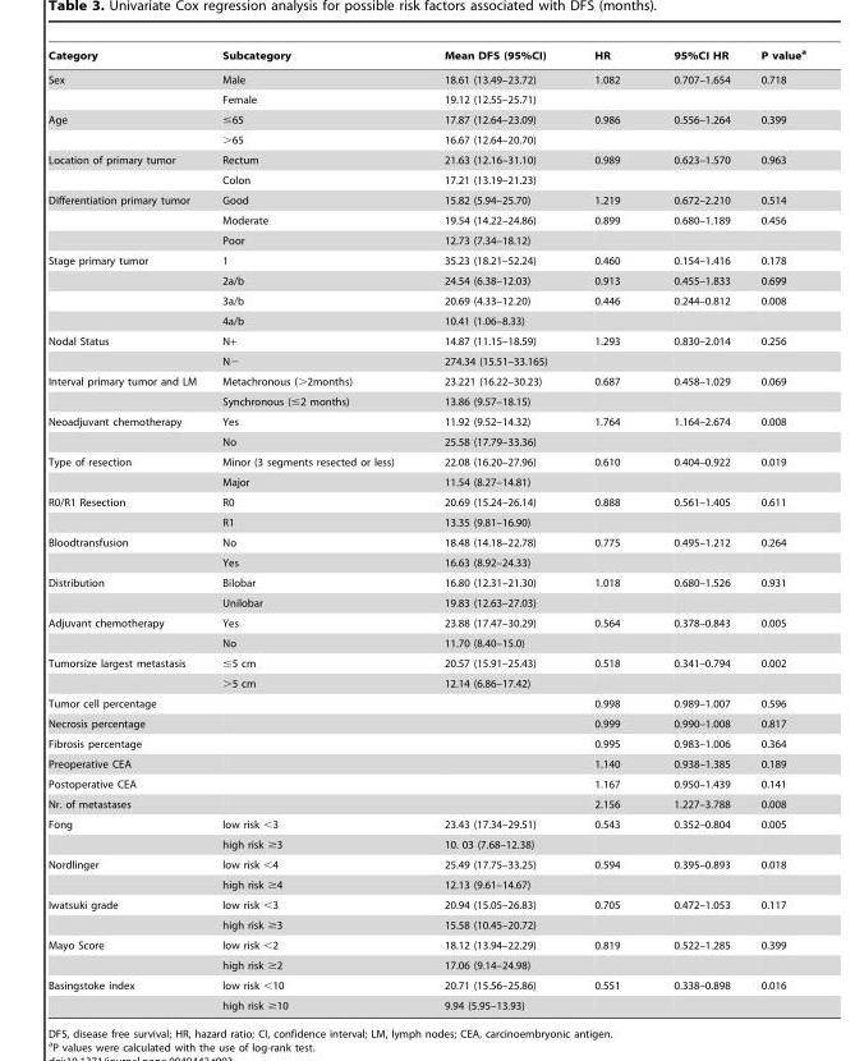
<table><thead><tr><td>Category</td><td>Subcategory</td><td>Mean DFS (95%CI)</td><td>HR</td><td>95%CI HR</td><td>P value<sup>a</sup></td></tr></thead><tbody><tr><td rowspan="2">Sex</td><td>Male</td><td>18.61 (13.49–23.72)</td><td>1.082</td><td>0.707–1.654</td><td>0.718</td></tr><tr><td>Female</td><td>19.12 (12.55–25.71)</td><td></td><td></td><td></td></tr><tr><td rowspan="2">Age</td><td>≤65</td><td>17.87 (12.64–23.09)</td><td>0.986</td><td>0.556–1.264</td><td>0.399</td></tr><tr><td>&gt;65</td><td>16.67 (12.64–20.70)</td><td></td><td></td><td></td></tr><tr><td rowspan="2">Location of primary tumor</td><td>Rectum</td><td>21.63 (12.16–31.10)</td><td>0.989</td><td>0.623–1.570</td><td>0.963</td></tr><tr><td>Colon</td><td>17.21 (13.19–21.23)</td><td></td><td></td><td></td></tr><tr><td rowspan="3">Differentiation primary tumor</td><td>Good</td><td>15.82 (5.94–25.70)</td><td>1.219</td><td>0.672–2.210</td><td>0.514</td></tr><tr><td>Moderate</td><td>19.54 (14.22–24.86)</td><td>0.899</td><td>0.680–1.189</td><td>0.456</td></tr><tr><td>Poor</td><td>12.73 (7.34–18.12)</td><td></td><td></td><td></td></tr><tr><td rowspan="4">Stage primary tumor</td><td>1</td><td>35.23 (18.21–52.24)</td><td>0.460</td><td>0.154–1.416</td><td>0.178</td></tr><tr><td>2a/b</td><td>24.54 (6.38–12.03)</td><td>0.913</td><td>0.455–1.833</td><td>0.699</td></tr><tr><td>3a/b</td><td>20.69 (4.33–12.20)</td><td>0.446</td><td>0.244–0.812</td><td>0.008</td></tr><tr><td>4a/b</td><td>10.41 (1.06–8.33)</td><td></td><td></td><td></td></tr><tr><td rowspan="2">Nodal Status</td><td>N+</td><td>14.87 (11.15–18.59)</td><td>1.293</td><td>0.830–2.014</td><td>0.256</td></tr><tr><td>N−</td><td>274.34 (15.51–33.165)</td><td></td><td></td><td></td></tr><tr><td rowspan="2">Interval primary tumor and LM</td><td>Metachronous (&gt;2months)</td><td>23.221 (16.22–30.23)</td><td>0.687</td><td>0.458–1.029</td><td>0.069</td></tr><tr><td>Synchronous (≤2 months)</td><td>13.86 (9.57–18.15)</td><td></td><td></td><td></td></tr><tr><td rowspan="2">Neoadjuvant chemotherapy</td><td>Yes</td><td>11.92 (9.52–14.32)</td><td>1.764</td><td>1.164–2.674</td><td>0.008</td></tr><tr><td>No</td><td>25.58 (17.79–33.36)</td><td></td><td></td><td></td></tr><tr><td rowspan="2">Type of resection</td><td>Minor (3 segments resected or less)</td><td>22.08 (16.20–27.96)</td><td>0.610</td><td>0.404–0.922</td><td>0.019</td></tr><tr><td>Major</td><td>11.54 (8.27–14.81)</td><td></td><td></td><td></td></tr><tr><td rowspan="2">R0/R1 Resection</td><td>R0</td><td>20.69 (15.24–26.14)</td><td>0.888</td><td>0.561–1.405</td><td>0.611</td></tr><tr><td>R1</td><td>13.35 (9.81–16.90)</td><td></td><td></td><td></td></tr><tr><td rowspan="2">Bloodtransfusion</td><td>No</td><td>18.48 (14.18–22.78)</td><td>0.775</td><td>0.495–1.212</td><td>0.264</td></tr><tr><td>Yes</td><td>16.63 (8.92–24.33)</td><td></td><td></td><td></td></tr><tr><td rowspan="2">Distribution</td><td>Bilobar</td><td>16.80 (12.31–21.30)</td><td>1.018</td><td>0.680–1.526</td><td>0.931</td></tr><tr><td>Unilobar</td><td>19.83 (12.63–27.03)</td><td></td><td></td><td></td></tr><tr><td rowspan="2">Adjuvant chemotherapy</td><td>Yes</td><td>23.88 (17.47–30.29)</td><td>0.564</td><td>0.378–0.843</td><td>0.005</td></tr><tr><td>No</td><td>11.70 (8.40–15.0)</td><td></td><td></td><td></td></tr><tr><td rowspan="2">Tumorsize largest metastasis</td><td>≤5 cm</td><td>20.57 (15.91–25.43)</td><td>0.518</td><td>0.341–0.794</td><td>0.002</td></tr><tr><td>&gt;5 cm</td><td>12.14 (6.86–17.42)</td><td></td><td></td><td></td></tr><tr><td>Tumor cell percentage</td><td></td><td></td><td>0.998</td><td>0.989–1.007</td><td>0.596</td></tr><tr><td>Necrosis percentage</td><td></td><td></td><td>0.999</td><td>0.990–1.008</td><td>0.817</td></tr><tr><td>Fibrosis percentage</td><td></td><td></td><td>0.995</td><td>0.983–1.006</td><td>0.364</td></tr><tr><td>Preoperative CEA</td><td></td><td></td><td>1.140</td><td>0.938–1.385</td><td>0.189</td></tr><tr><td>Postoperative CEA</td><td></td><td></td><td>1.167</td><td>0.950–1.439</td><td>0.141</td></tr><tr><td>Nr. of metastases</td><td></td><td></td><td>2.156</td><td>1.227–3.788</td><td>0.008</td></tr><tr><td rowspan="2">Fong</td><td>low risk &lt;3</td><td>23.43 (17.34–29.51)</td><td>0.543</td><td>0.352–0.804</td><td>0.005</td></tr><tr><td>high risk ≥3</td><td>10. 03 (7.68–12.38)</td><td></td><td></td><td></td></tr><tr><td rowspan="2">Nordlinger</td><td>low risk &lt;4</td><td>25.49 (17.75–33.25)</td><td>0.594</td><td>0.395–0.893</td><td>0.018</td></tr><tr><td>high risk ≥4</td><td>12.13 (9.61–14.67)</td><td></td><td></td><td></td></tr><tr><td rowspan="2">Iwatsuki grade</td><td>low risk &lt;3</td><td>20.94 (15.05–26.83)</td><td>0.705</td><td>0.472–1.053</td><td>0.117</td></tr><tr><td>high risk ≥3</td><td>15.58 (10.45–20.72)</td><td></td><td></td><td></td></tr><tr><td rowspan="2">Mayo Score</td><td>low risk &lt;2</td><td>18.12 (13.94–22.29)</td><td>0.819</td><td>0.522–1.285</td><td>0.399</td></tr><tr><td>high risk ≥2</td><td>17.06 (9.14–24.98)</td><td></td><td></td><td></td></tr><tr><td rowspan="2">Basingstoke index</td><td>low risk &lt;10</td><td>20.71 (15.56–25.86)</td><td>0.551</td><td>0.338–0.898</td><td>0.016</td></tr><tr><td>high risk ≥10</td><td>9.94 (5.95–13.93)</td><td></td><td></td><td></td></tr></tbody></table>